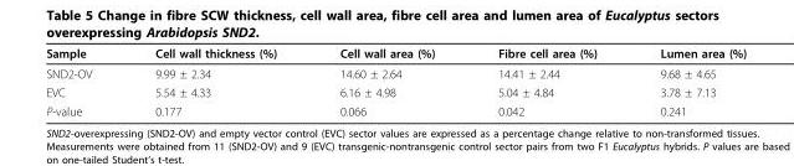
<table><thead><tr><td>Sample</td><td>Cell wall thickness (%)</td><td>Cell wall area (%)</td><td>Fibre cell area (%)</td><td>Lumen area (%)</td></tr></thead><tbody><tr><td>SND2-OV</td><td>9.99 ± 2.34</td><td>14.60 ± 2.64</td><td>14.41 ± 2.44</td><td>9.68 ± 4.65</td></tr><tr><td>EVC</td><td>5.54 ± 4.33</td><td>6.16 ± 4.98</td><td>5.04 ± 4.84</td><td>3.78 ± 7.13</td></tr><tr><td>P-value</td><td>0.177</td><td>0.066</td><td>0.042</td><td>0.241</td></tr></tbody></table>